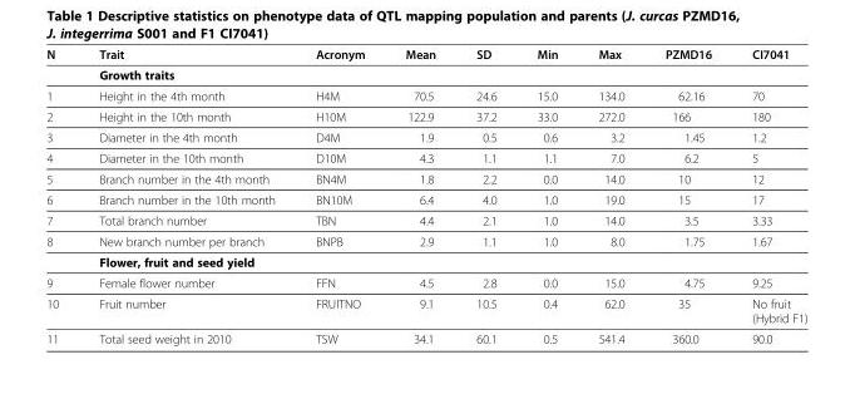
<table><thead><tr><td>N</td><td>Trait</td><td>Acronym</td><td>Mean</td><td>SD</td><td>Min</td><td>Max</td><td>PZMD16</td><td>CI7041</td></tr></thead><tbody><tr><td></td><td>Growth traits</td><td></td><td></td><td></td><td></td><td></td><td></td><td></td></tr><tr><td>1</td><td>Height in the 4th month</td><td>H4M</td><td>70.5</td><td>24.6</td><td>15.0</td><td>134.0</td><td>62.16</td><td>70</td></tr><tr><td>2</td><td>Height in the 10th month</td><td>H10M</td><td>122.9</td><td>37.2</td><td>33.0</td><td>272.0</td><td>166</td><td>180</td></tr><tr><td>3</td><td>Diameter in the 4th month</td><td>D4M</td><td>1.9</td><td>0.5</td><td>0.6</td><td>3.2</td><td>1.45</td><td>1.2</td></tr><tr><td>4</td><td>Diameter in the 10th month</td><td>D10M</td><td>4.3</td><td>1.1</td><td>1.1</td><td>7.0</td><td>6.2</td><td>5</td></tr><tr><td>5</td><td>Branch number in the 4th month</td><td>BN4M</td><td>1.8</td><td>2.2</td><td>0.0</td><td>14.0</td><td>10</td><td>12</td></tr><tr><td>6</td><td>Branch number in the 10th month</td><td>BN10M</td><td>6.4</td><td>4.0</td><td>1.0</td><td>19.0</td><td>15</td><td>17</td></tr><tr><td>7</td><td>Total branch number</td><td>TBN</td><td>4.4</td><td>2.1</td><td>1.0</td><td>14.0</td><td>3.5</td><td>3.33</td></tr><tr><td rowspan="2">8</td><td>New branch number per branch</td><td>BNPB</td><td>2.9</td><td>1.1</td><td>1.0</td><td>8.0</td><td>1.75</td><td>1.67</td></tr><tr><td>Flower, fruit and seed yield</td><td></td><td></td><td></td><td></td><td></td><td></td><td></td></tr><tr><td>9</td><td>Female flower number</td><td>FFN</td><td>4.5</td><td>2.8</td><td>0.0</td><td>15.0</td><td>4.75</td><td>9.25</td></tr><tr><td>10</td><td>Fruit number</td><td>FRUITNO</td><td>9.1</td><td>10.5</td><td>0.4</td><td>62.0</td><td>35</td><td>No fruit (Hybrid F1)</td></tr><tr><td>11</td><td>Total seed weight in 2010</td><td>TSW</td><td>34.1</td><td>60.1</td><td>0.5</td><td>541.4</td><td>360.0</td><td>90.0</td></tr></tbody></table>